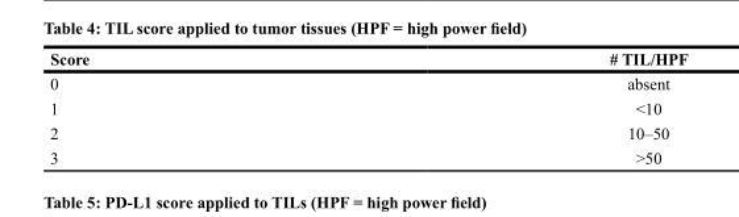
<table><thead><tr><td>Score</td><td># TIL/HPF</td></tr></thead><tbody><tr><td>0</td><td>absent</td></tr><tr><td>1</td><td>&lt;10</td></tr><tr><td>2</td><td>10–50</td></tr><tr><td>3</td><td>&gt;50</td></tr></tbody></table>